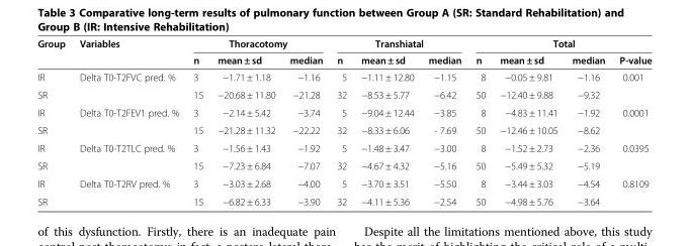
<table><thead><tr><td rowspan="2">Group</td><td rowspan="2">Variables</td><td colspan="3">Thoracotomy</td><td colspan="3">Transhiatal</td><td colspan="4">Total</td></tr><tr><td>n</td><td>mean ± sd</td><td>median</td><td>n</td><td>mean ± sd</td><td>median</td><td>n</td><td>mean ± sd</td><td>median</td><td>P-value</td></tr></thead><tbody><tr><td>IR</td><td rowspan="2">Delta T0-T2FVC pred. %</td><td>3</td><td>−1.71 ± 1.18</td><td>−1.16</td><td>5</td><td>−1.11 ± 12.80</td><td>−1.15</td><td>8</td><td>−0.05 ± 9.81</td><td>−1.16</td><td>0.001</td></tr><tr><td>SR</td><td>15</td><td>−20.68 ± 11.80</td><td>−21.28</td><td>32</td><td>−8.53 ± 5.77</td><td>−6.42</td><td>50</td><td>−12.40 ± 9.88</td><td>−9.32</td><td></td></tr><tr><td>IR</td><td rowspan="2">Delta T0-T2FEV1 pred. %</td><td>3</td><td>−2.14 ± 5.42</td><td>−3.74</td><td>5</td><td>−9.04 ± 12.44</td><td>−3.85</td><td>8</td><td>−4.83 ± 11.41</td><td>−1.92</td><td>0.0001</td></tr><tr><td>SR</td><td>15</td><td>−21.28 ± 11.32</td><td>−22.22</td><td>32</td><td>−8.33 ± 6.06</td><td>- 7.69</td><td>50</td><td>−12.46 ± 10.05</td><td>−8.62</td><td></td></tr><tr><td>IR</td><td rowspan="2">Delta T0-T2TLC pred. %</td><td>3</td><td>−1.56 ± 1.43</td><td>−1.92</td><td>5</td><td>−1.48 ± 3.47</td><td>−3.00</td><td>8</td><td>−1.52 ± 2.73</td><td>−2.36</td><td>0.0395</td></tr><tr><td>SR</td><td>15</td><td>−7.23 ± 6.84</td><td>−7.07</td><td>32</td><td>−4.67 ± 4.32</td><td>−5.16</td><td>50</td><td>−5.49 ± 5.32</td><td>−5.19</td><td></td></tr><tr><td>IR</td><td>Delta T0-T2RV pred. %</td><td>3</td><td>−3.03 ± 2.68</td><td>−4.00</td><td>5</td><td>−3.70 ± 3.51</td><td>−5.50</td><td>8</td><td>−3.44 ± 3.03</td><td>−4.54</td><td>0.8109</td></tr><tr><td>SR</td><td></td><td>15</td><td>−6.82 ± 6.33</td><td>−3.90</td><td>32</td><td>−4.11 ± 5.36</td><td>−2.54</td><td>50</td><td>−4.98 ± 5.76</td><td>−3.64</td><td></td></tr></tbody></table>